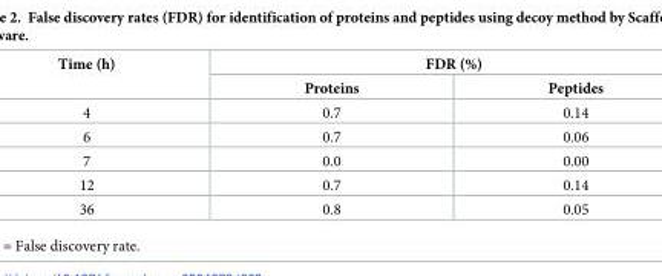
<table><thead><tr><td rowspan="2">Time (h)</td><td colspan="2">FDR (%)</td></tr><tr><td>Proteins</td><td>Peptides</td></tr></thead><tbody><tr><td>4</td><td>0.7</td><td>0.14</td></tr><tr><td>6</td><td>0.7</td><td>0.06</td></tr><tr><td>7</td><td>0.0</td><td>0.00</td></tr><tr><td>12</td><td>0.7</td><td>0.14</td></tr><tr><td>36</td><td>0.8</td><td>0.05</td></tr></tbody></table>